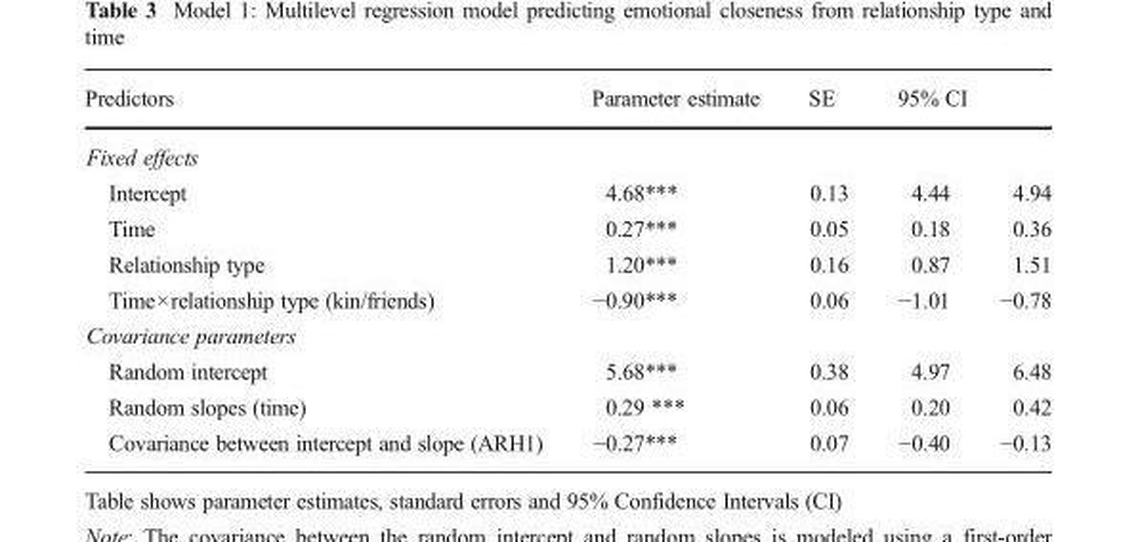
<table><thead><tr><td>Predictors</td><td>Parameter estimate</td><td>SE</td><td colspan="2">95% CI</td></tr><tr><td colspan="5">Fixed effects</td></tr><tr><td>Intercept</td><td>4.68***</td><td>0.13</td><td>4.44</td><td>4.94</td></tr></thead><tbody><tr><td>Time</td><td>0.27***</td><td>0.05</td><td>0.18</td><td>0.36</td></tr><tr><td>Relationship type</td><td>1.20***</td><td>0.16</td><td>0.87</td><td>1.51</td></tr><tr><td>Time×relationship type (kin/friends)</td><td>−0.90***</td><td>0.06</td><td>−1.01</td><td>−0.78</td></tr><tr><td colspan="5">Covariance parameters</td></tr><tr><td>Random intercept</td><td>5.68***</td><td>0.38</td><td>4.97</td><td>6.48</td></tr><tr><td>Random slopes (time)</td><td>0.29 ***</td><td>0.06</td><td>0.20</td><td>0.42</td></tr><tr><td>Covariance between intercept and slope (ARH1)</td><td>−0.27***</td><td>0.07</td><td>−0.40</td><td>−0.13</td></tr></tbody></table>